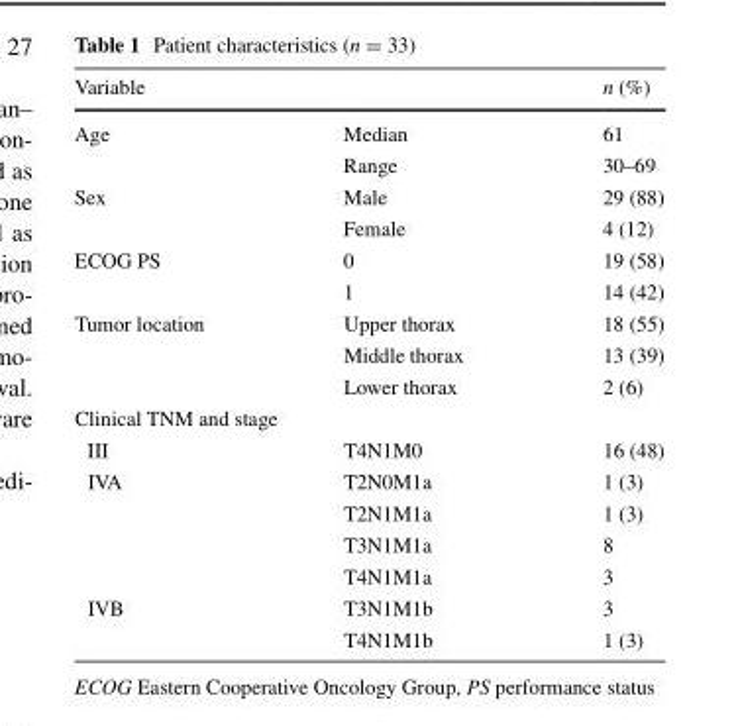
<table><thead><tr><td>Variable</td><td></td><td>n (%)</td></tr></thead><tbody><tr><td rowspan="2">Age</td><td>Median</td><td>61</td></tr><tr><td>Range</td><td>30–69</td></tr><tr><td rowspan="2">Sex</td><td>Male</td><td>29 (88)</td></tr><tr><td>Female</td><td>4 (12)</td></tr><tr><td rowspan="2">ECOG PS</td><td>0</td><td>19 (58)</td></tr><tr><td>1</td><td>14 (42)</td></tr><tr><td rowspan="3">Tumor location</td><td>Upper thorax</td><td>18 (55)</td></tr><tr><td>Middle thorax</td><td>13 (39)</td></tr><tr><td>Lower thorax</td><td>2 (6)</td></tr><tr><td colspan="3">Clinical TNM and stage</td></tr><tr><td>III</td><td>T4N1M0</td><td>16 (48)</td></tr><tr><td rowspan="4">IVA</td><td>T2N0M1a</td><td>1 (3)</td></tr><tr><td>T2N1M1a</td><td>1 (3)</td></tr><tr><td>T3N1M1a</td><td>8</td></tr><tr><td>T4N1M1a</td><td>3</td></tr><tr><td rowspan="2">IVB</td><td>T3N1M1b</td><td>3</td></tr><tr><td>T4N1M1b</td><td>1 (3)</td></tr></tbody></table>